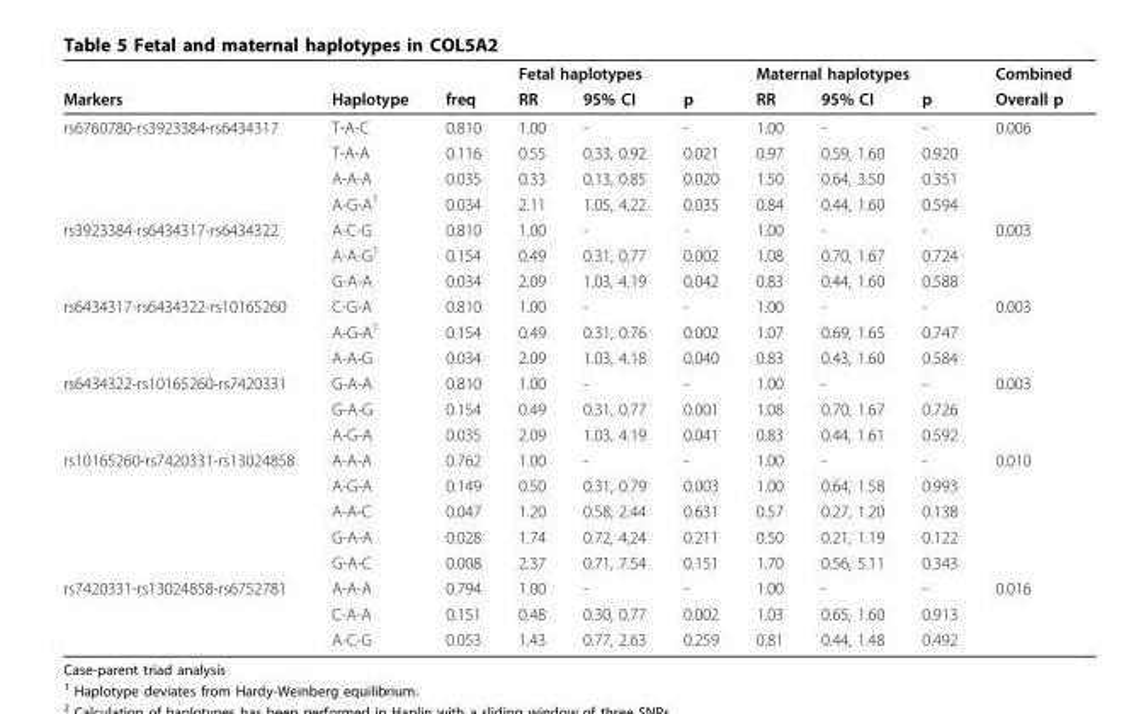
<table><thead><tr><td rowspan="2">Markers</td><td rowspan="2">Haplotype</td><td rowspan="2">freq</td><td colspan="3">Fetal haplotypes</td><td colspan="3">Maternal haplotypes</td><td rowspan="2">Combined Overall p</td></tr><tr><td>RR</td><td>95% CI</td><td>p</td><td>RR</td><td>95% CI</td><td>p</td></tr></thead><tbody><tr><td rowspan="4">rs6760780-rs3923384-rs6434317</td><td>T-A-C</td><td>0.810</td><td>1.00</td><td>-</td><td>-</td><td>1.00</td><td>-</td><td>-</td><td>0.006</td></tr><tr><td>T-A-A</td><td>0.116</td><td>0.55</td><td>0.33, 0.92</td><td>0.021</td><td>0.97</td><td>0.59, 1.60</td><td>0.920</td><td></td></tr><tr><td>A-A-A</td><td>0.035</td><td>0.33</td><td>0.13, 0.85</td><td>0.020</td><td>1.50</td><td>0.64, 3.50</td><td>0.351</td><td></td></tr><tr><td>A-G-A<sup>1</sup></td><td>0.034</td><td>2.11</td><td>1.05, 4.22</td><td>0.035</td><td>0.84</td><td>0.44, 1.60</td><td>0.594</td><td></td></tr><tr><td rowspan="3">rs3923384-rs6434317-rs6434322</td><td>A-C-G</td><td>0.810</td><td>1.00</td><td>-</td><td>-</td><td>1.00</td><td>-</td><td>-</td><td>0.003</td></tr><tr><td>A-A-G<sup>1</sup></td><td>0.154</td><td>0.49</td><td>0.31, 0.77</td><td>0.002</td><td>1.08</td><td>0.70, 1.67</td><td>0.724</td><td></td></tr><tr><td>G-A-A</td><td>0.034</td><td>2.09</td><td>1.03, 4.19</td><td>0.042</td><td>0.83</td><td>0.44, 1.60</td><td>0.588</td><td></td></tr><tr><td rowspan="3">rs6434317-rs6434322-rs10165260</td><td>C-G-A</td><td>0.810</td><td>1.00</td><td>-</td><td>-</td><td>1.00</td><td>-</td><td>-</td><td>0.003</td></tr><tr><td>A-G-A<sup>1</sup></td><td>0.154</td><td>0.49</td><td>0.31, 0.76</td><td>0.002</td><td>1.07</td><td>0.69, 1.65</td><td>0.747</td><td></td></tr><tr><td>A-A-G</td><td>0.034</td><td>2.09</td><td>1.03, 4.18</td><td>0.040</td><td>0.83</td><td>0.43, 1.60</td><td>0.584</td><td></td></tr><tr><td rowspan="3">rs6434322-rs10165260-rs7420331</td><td>G-A-A</td><td>0.810</td><td>1.00</td><td>-</td><td>-</td><td>1.00</td><td>-</td><td>-</td><td>0.003</td></tr><tr><td>G-A-G</td><td>0.154</td><td>0.49</td><td>0.31, 0.77</td><td>0.001</td><td>1.08</td><td>0.70, 1.67</td><td>0.726</td><td></td></tr><tr><td>A-G-A</td><td>0.035</td><td>2.09</td><td>1.03, 4.19</td><td>0.041</td><td>0.83</td><td>0.44, 1.61</td><td>0.592</td><td></td></tr><tr><td rowspan="5">rs10165260-rs7420331-rs13024858</td><td>A-A-A</td><td>0.762</td><td>1.00</td><td>-</td><td>-</td><td>1.00</td><td>-</td><td>-</td><td>0.010</td></tr><tr><td>A-G-A</td><td>0.149</td><td>0.50</td><td>0.31, 0.79</td><td>0.003</td><td>1.00</td><td>0.64, 1.58</td><td>0.993</td><td></td></tr><tr><td>A-A-C</td><td>0.047</td><td>1.20</td><td>0.58, 2.44</td><td>0.631</td><td>0.57</td><td>0.27, 1.20</td><td>0.138</td><td></td></tr><tr><td>G-A-A</td><td>0.028</td><td>1.74</td><td>0.72, 4,24</td><td>0.211</td><td>0.50</td><td>0.21, 1.19</td><td>0.122</td><td></td></tr><tr><td>G-A-C</td><td>0.008</td><td>2.37</td><td>0.71, 7.54</td><td>0.151</td><td>1.70</td><td>0.56, 5.11</td><td>0.343</td><td></td></tr><tr><td rowspan="3">rs7420331-rs13024858-rs6752781</td><td>A-A-A</td><td>0.794</td><td>1.00</td><td>-</td><td>-</td><td>1.00</td><td>-</td><td>-</td><td>0.016</td></tr><tr><td>C-A-A</td><td>0.151</td><td>0.48</td><td>0.30, 0.77</td><td>0.002</td><td>1.03</td><td>0.65, 1.60</td><td>0.913</td><td></td></tr><tr><td>A-C-G</td><td>0.053</td><td>1.43</td><td>0.77, 2.63</td><td>0.259</td><td>0.81</td><td>0.44, 1.48</td><td>0.492</td><td></td></tr></tbody></table>